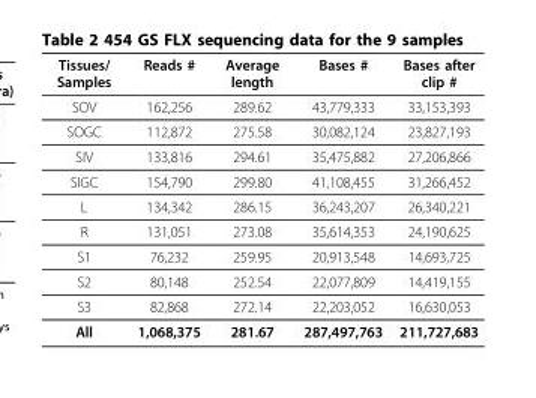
<table><thead><tr><td>Tissues/ Samples</td><td>Reads #</td><td>Average length</td><td>Bases #</td><td>Bases after clip #</td></tr></thead><tbody><tr><td>SOV</td><td>162,256</td><td>289.62</td><td>43,779,333</td><td>33,153,393</td></tr><tr><td>SOGC</td><td>112,872</td><td>275.58</td><td>30,082,124</td><td>23,827,193</td></tr><tr><td>SIV</td><td>133,816</td><td>294.61</td><td>35,475,882</td><td>27,206,866</td></tr><tr><td>SIGC</td><td>154,790</td><td>299.80</td><td>41,108,455</td><td>31,266,452</td></tr><tr><td>L</td><td>134,342</td><td>286.15</td><td>36,243,207</td><td>26,340,221</td></tr><tr><td>R</td><td>131,051</td><td>273.08</td><td>35,614,353</td><td>24,190,625</td></tr><tr><td>S1</td><td>76,232</td><td>259.95</td><td>20,913,548</td><td>14,693,725</td></tr><tr><td>S2</td><td>80,148</td><td>252.54</td><td>22,077,809</td><td>14,419,155</td></tr><tr><td>S3</td><td>82,868</td><td>272.14</td><td>22,203,052</td><td>16,630,053</td></tr><tr><td>All</td><td>1,068,375</td><td>281.67</td><td>287,497,763</td><td>211,727,683</td></tr></tbody></table>